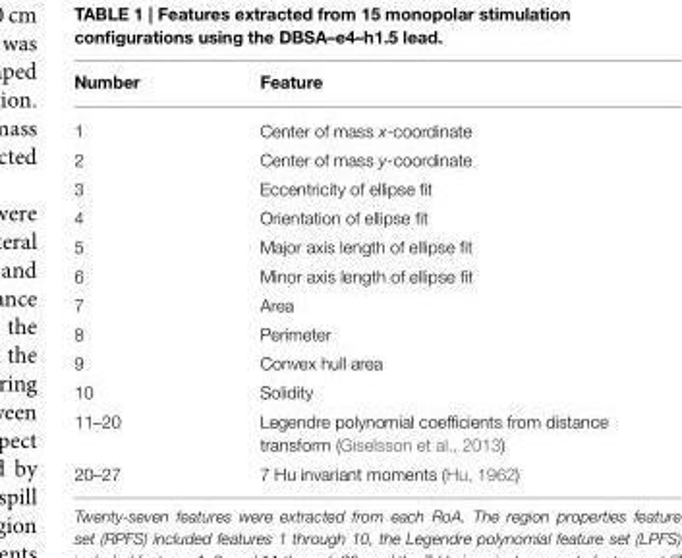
<table><thead><tr><td>Number</td><td>Feature</td></tr></thead><tbody><tr><td>1</td><td>Center of mass x-coordinate</td></tr><tr><td>2</td><td>Center of mass y-coordinate</td></tr><tr><td>3</td><td>Eccentricity of ellipse fit</td></tr><tr><td>4</td><td>Orientation of ellipse fit</td></tr><tr><td>5</td><td>Major axis length of ellipse fit</td></tr><tr><td>6</td><td>Minor axis length of ellipse fit</td></tr><tr><td>7</td><td>Area</td></tr><tr><td>8</td><td>Perimeter</td></tr><tr><td>9</td><td>Convex hull area</td></tr><tr><td>10</td><td>Solidity</td></tr><tr><td>11–20</td><td>Legendre polynomial coefficients from distance transform (Giselsson et al., 2013)</td></tr><tr><td>20–27</td><td>7 Hu invariant moments (Hu, 1962)</td></tr></tbody></table>